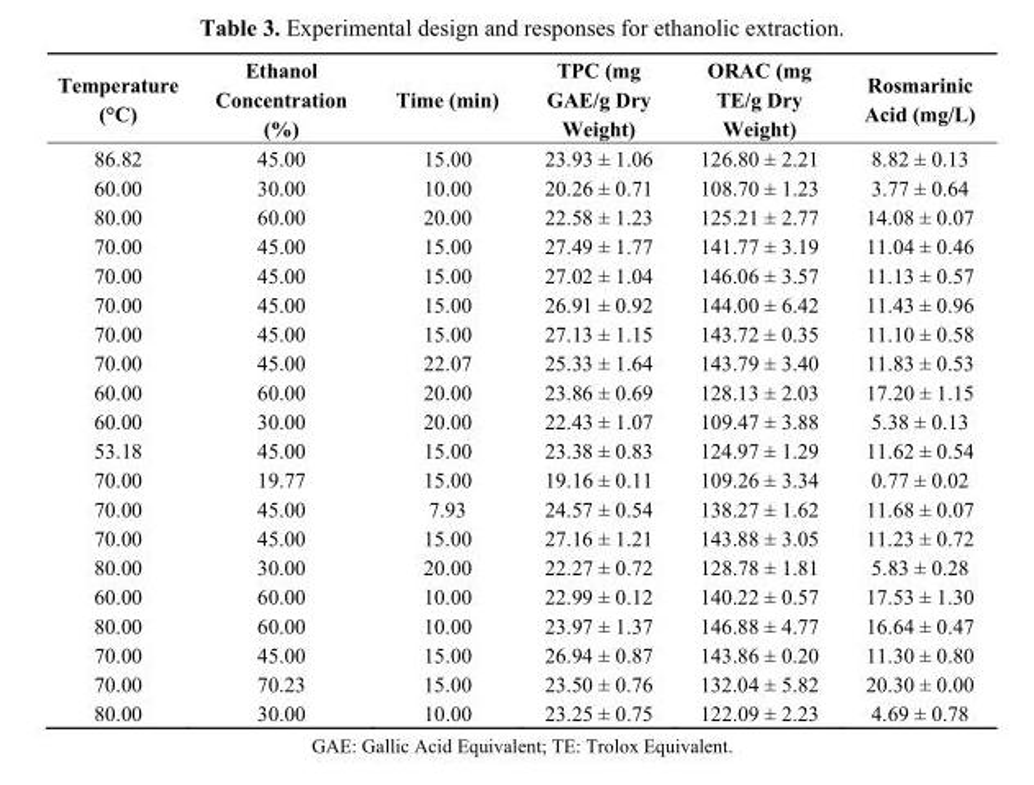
<table><thead><tr><td>Temperature (°C)</td><td>Ethanol Concentration (%)</td><td>Time (min)</td><td>TPC (mg GAE/g Dry Weight)</td><td>ORAC (mg TE/g Dry Weight)</td><td>Rosmarinic Acid (mg/L)</td></tr></thead><tbody><tr><td>86.82</td><td>45.00</td><td>15.00</td><td>23.93 ± 1.06</td><td>126.80 ± 2.21</td><td>8.82 ± 0.13</td></tr><tr><td>60.00</td><td>30.00</td><td>10.00</td><td>20.26 ± 0.71</td><td>108.70 ± 1.23</td><td>3.77 ± 0.64</td></tr><tr><td>80.00</td><td>60.00</td><td>20.00</td><td>22.58 ± 1.23</td><td>125.21 ± 2.77</td><td>14.08 ± 0.07</td></tr><tr><td>70.00</td><td>45.00</td><td>15.00</td><td>27.49 ± 1.77</td><td>141.77 ± 3.19</td><td>11.04 ± 0.46</td></tr><tr><td>70.00</td><td>45.00</td><td>15.00</td><td>27.02 ± 1.04</td><td>146.06 ± 3.57</td><td>11.13 ± 0.57</td></tr><tr><td>70.00</td><td>45.00</td><td>15.00</td><td>26.91 ± 0.92</td><td>144.00 ± 6.42</td><td>11.43 ± 0.96</td></tr><tr><td>70.00</td><td>45.00</td><td>15.00</td><td>27.13 ± 1.15</td><td>143.72 ± 0.35</td><td>11.10 ± 0.58</td></tr><tr><td>70.00</td><td>45.00</td><td>22.07</td><td>25.33 ± 1.64</td><td>143.79 ± 3.40</td><td>11.83 ± 0.53</td></tr><tr><td>60.00</td><td>60.00</td><td>20.00</td><td>23.86 ± 0.69</td><td>128.13 ± 2.03</td><td>17.20 ± 1.15</td></tr><tr><td>60.00</td><td>30.00</td><td>20.00</td><td>22.43 ± 1.07</td><td>109.47 ± 3.88</td><td>5.38 ± 0.13</td></tr><tr><td>53.18</td><td>45.00</td><td>15.00</td><td>23.38 ± 0.83</td><td>124.97 ± 1.29</td><td>11.62 ± 0.54</td></tr><tr><td>70.00</td><td>19.77</td><td>15.00</td><td>19.16 ± 0.11</td><td>109.26 ± 3.34</td><td>0.77 ± 0.02</td></tr><tr><td>70.00</td><td>45.00</td><td>7.93</td><td>24.57 ± 0.54</td><td>138.27 ± 1.62</td><td>11.68 ± 0.07</td></tr><tr><td>70.00</td><td>45.00</td><td>15.00</td><td>27.16 ± 1.21</td><td>143.88 ± 3.05</td><td>11.23 ± 0.72</td></tr><tr><td>80.00</td><td>30.00</td><td>20.00</td><td>22.27 ± 0.72</td><td>128.78 ± 1.81</td><td>5.83 ± 0.28</td></tr><tr><td>60.00</td><td>60.00</td><td>10.00</td><td>22.99 ± 0.12</td><td>140.22 ± 0.57</td><td>17.53 ± 1.30</td></tr><tr><td>80.00</td><td>60.00</td><td>10.00</td><td>23.97 ± 1.37</td><td>146.88 ± 4.77</td><td>16.64 ± 0.47</td></tr><tr><td>70.00</td><td>45.00</td><td>15.00</td><td>26.94 ± 0.87</td><td>143.86 ± 0.20</td><td>11.30 ± 0.80</td></tr><tr><td>70.00</td><td>70.23</td><td>15.00</td><td>23.50 ± 0.76</td><td>132.04 ± 5.82</td><td>20.30 ± 0.00</td></tr><tr><td>80.00</td><td>30.00</td><td>10.00</td><td>23.25 ± 0.75</td><td>122.09 ± 2.23</td><td>4.69 ± 0.78</td></tr></tbody></table>